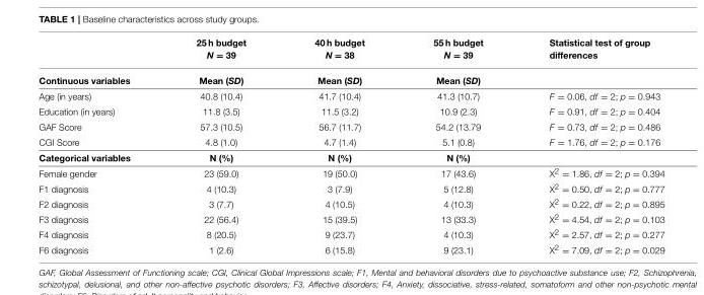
<table><thead><tr><td rowspan="2">Continuous variables</td><td rowspan="2">25 h budget N = 39 Mean (SD)</td><td rowspan="2">40 h budget N = 38 Mean (SD)</td><td rowspan="2">55 h budget N = 39 Mean (SD)</td><td rowspan="2">Statistical test of group differences</td></tr><tr></tr></thead><tbody><tr><td>Age (in years)</td><td>40.8 (10.4)</td><td>41.7 (10.4)</td><td>41.3 (10.7)</td><td>F = 0.06, df = 2; p = 0.943</td></tr><tr><td>Education (in years)</td><td>11.8 (3.5)</td><td>11.5 (3.2)</td><td>10.9 (2.3)</td><td>F = 0.91, df = 2; p = 0.404</td></tr><tr><td>GAF Score</td><td>57.3 (10.5)</td><td>56.7 (11.7)</td><td>54.2 (13.79</td><td>F = 0.73, df = 2; p = 0.486</td></tr><tr><td>CGI Score</td><td>4.8 (1.0)</td><td>4.7 (1.4)</td><td>5.1 (0.8)</td><td>F = 1.76, df = 2; p = 0.176</td></tr><tr><td>Categorical variables</td><td>N (%)</td><td>N (%)</td><td>N (%)</td><td></td></tr><tr><td>Female gender</td><td>23 (59.0)</td><td>19 (50.0)</td><td>17 (43.6)</td><td>X<sup>2</sup> = 1.86, df = 2; p = 0.394</td></tr><tr><td>F1 diagnosis</td><td>4 (10.3)</td><td>3 (7.9)</td><td>5 (12.8)</td><td>X<sup>2</sup> = 0.50, df = 2; p = 0.777</td></tr><tr><td>F2 diagnosis</td><td>3 (7.7)</td><td>4 (10.5)</td><td>4 (10.3)</td><td>X<sup>2</sup> = 0.22, df = 2; p = 0.895</td></tr><tr><td>F3 diagnosis</td><td>22 (56.4)</td><td>15 (39.5)</td><td>13 (33.3)</td><td>X<sup>2</sup> = 4.54, df = 2; p = 0.103</td></tr><tr><td>F4 diagnosis</td><td>8 (20.5)</td><td>9 (23.7)</td><td>4 (10.3)</td><td>X<sup>2</sup> = 2.57, df = 2; p = 0.277</td></tr><tr><td>F6 diagnosis</td><td>1 (2.6)</td><td>6 (15.8)</td><td>9 (23.1)</td><td>X<sup>2</sup> = 7.09, df = 2; p = 0.029</td></tr></tbody></table>